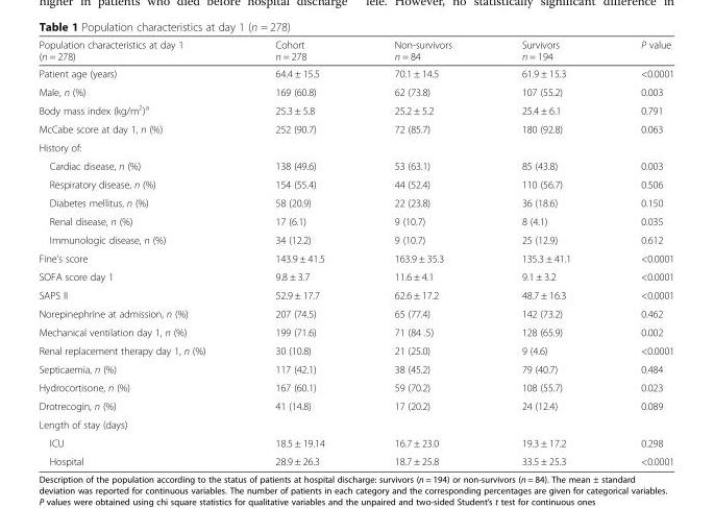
<table><thead><tr><td>Population characteristics at day 1 (n = 278)</td><td>Cohort n = 278</td><td>Non-survivors n = 84</td><td>Survivors n = 194</td><td>P value</td></tr></thead><tbody><tr><td>Patient age (years)</td><td>64.4 ± 15.5</td><td>70.1 ± 14.5</td><td>61.9 ± 15.3</td><td>&lt;0.0001</td></tr><tr><td>Male, n (%)</td><td>169 (60.8)</td><td>62 (73.8)</td><td>107 (55.2)</td><td>0.003</td></tr><tr><td>Body mass index (kg/m<sup>2</sup>)<sup>a</sup></td><td>25.3 ± 5.8</td><td>25.2 ± 5.2</td><td>25.4 ± 6.1</td><td>0.791</td></tr><tr><td>McCabe score at day 1, n (%)</td><td>252 (90.7)</td><td>72 (85.7)</td><td>180 (92.8)</td><td>0.063</td></tr><tr><td colspan="5">History of:</td></tr><tr><td>Cardiac disease, n (%)</td><td>138 (49.6)</td><td>53 (63.1)</td><td>85 (43.8)</td><td>0.003</td></tr><tr><td>Respiratory disease, n (%)</td><td>154 (55.4)</td><td>44 (52.4)</td><td>110 (56.7)</td><td>0.506</td></tr><tr><td>Diabetes mellitus, n (%)</td><td>58 (20.9)</td><td>22 (23.8)</td><td>36 (18.6)</td><td>0.150</td></tr><tr><td>Renal disease, n (%)</td><td>17 (6.1)</td><td>9 (10.7)</td><td>8 (4.1)</td><td>0.035</td></tr><tr><td>Immunologic disease, n (%)</td><td>34 (12.2)</td><td>9 (10.7)</td><td>25 (12.9)</td><td>0.612</td></tr><tr><td>Fine’s score</td><td>143.9 ± 41.5</td><td>163.9 ± 35.3</td><td>135.3 ± 41.1</td><td>&lt;0.0001</td></tr><tr><td>SOFA score day 1</td><td>9.8 ± 3.7</td><td>11.6 ± 4.1</td><td>9.1 ± 3.2</td><td>&lt;0.0001</td></tr><tr><td>SAPS II</td><td>52.9 ± 17.7</td><td>62.6 ± 17.2</td><td>48.7 ± 16.3</td><td>&lt;0.0001</td></tr><tr><td>Norepinephrine at admission, n (%)</td><td>207 (74.5)</td><td>65 (77.4)</td><td>142 (73.2)</td><td>0.462</td></tr><tr><td>Mechanical ventilation day 1, n (%)</td><td>199 (71.6)</td><td>71 (84 .5)</td><td>128 (65.9)</td><td>0.002</td></tr><tr><td>Renal replacement therapy day 1, n (%)</td><td>30 (10.8)</td><td>21 (25.0)</td><td>9 (4.6)</td><td>&lt;0.0001</td></tr><tr><td>Septicaemia, n (%)</td><td>117 (42.1)</td><td>38 (45.2)</td><td>79 (40.7)</td><td>0.484</td></tr><tr><td>Hydrocortisone, n (%)</td><td>167 (60.1)</td><td>59 (70.2)</td><td>108 (55.7)</td><td>0.023</td></tr><tr><td>Drotrecogin, n (%)</td><td>41 (14.8)</td><td>17 (20.2)</td><td>24 (12.4)</td><td>0.089</td></tr><tr><td colspan="5">Length of stay (days)</td></tr><tr><td>ICU</td><td>18.5 ± 19.14</td><td>16.7 ± 23.0</td><td>19.3 ± 17.2</td><td>0.298</td></tr><tr><td>Hospital</td><td>28.9 ± 26.3</td><td>18.7 ± 25.8</td><td>33.5 ± 25.3</td><td>&lt;0.0001</td></tr></tbody></table>